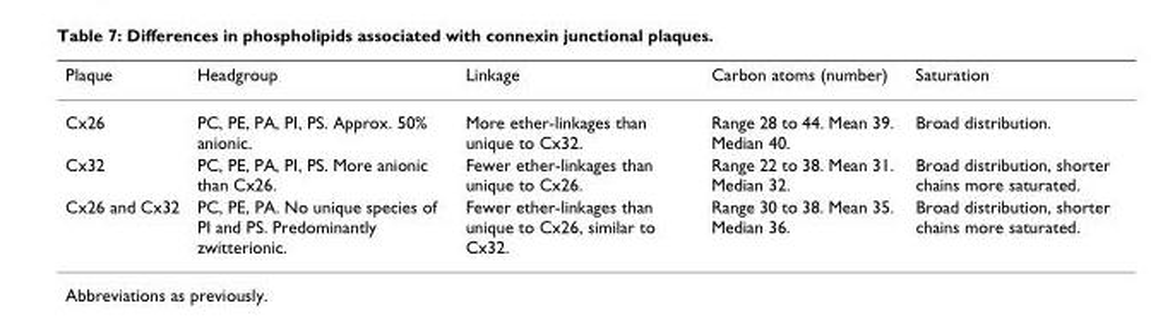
<table><thead><tr><td>Plaque</td><td>Headgroup</td><td>Linkage</td><td>Carbon atoms (number)</td><td>Saturation</td></tr></thead><tbody><tr><td>Cx26</td><td>PC, PE, PA, PI, PS. Approx. 50% anionic.</td><td>More ether-linkages than unique to Cx32.</td><td>Range 28 to 44. Mean 39. Median 40.</td><td>Broad distribution.</td></tr><tr><td>Cx32</td><td>PC, PE, PA, PI, PS. More anionic than Cx26.</td><td>Fewer ether-linkages than unique to Cx26.</td><td>Range 22 to 38. Mean 31. Median 32.</td><td>Broad distribution, shorter chains more saturated.</td></tr><tr><td>Cx26 and Cx32</td><td>PC, PE, PA. No unique species of PI and PS. Predominantly zwitterionic.</td><td>Fewer ether-linkages than unique to Cx26, similar to Cx32.</td><td>Range 30 to 38. Mean 35. Median 36.</td><td>Broad distribution, shorter chains more saturated.</td></tr></tbody></table>